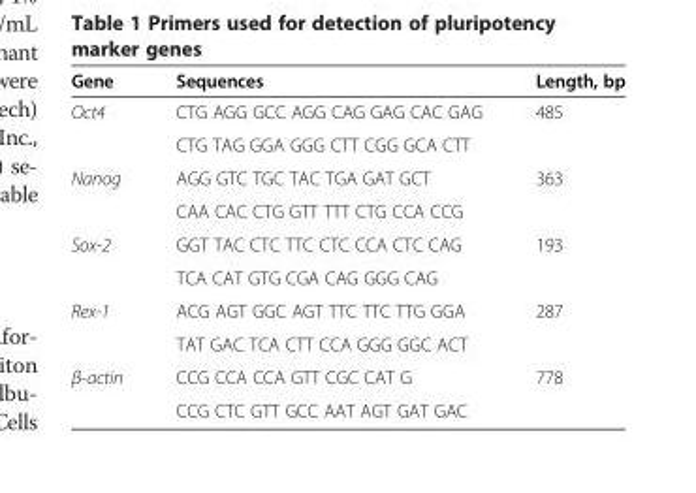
<table><thead><tr><td>Gene</td><td>Sequences</td><td>Length, bp</td></tr></thead><tbody><tr><td rowspan="2">Oct4</td><td>CTG AGG GCC AGG CAG GAG CAC GAG</td><td rowspan="2">485</td></tr><tr><td>CTG TAG GGA GGG CTT CGG GCA CTT</td></tr><tr><td rowspan="2">Nanog</td><td>AGG GTC TGC TAC TGA GAT GCT</td><td rowspan="2">363</td></tr><tr><td>CAA CAC CTG GTT TTT CTG CCA CCG</td></tr><tr><td rowspan="2">Sox-2</td><td>GGT TAC CTC TTC CTC CCA CTC CAG</td><td rowspan="2">193</td></tr><tr><td>TCA CAT GTG CGA CAG GGG CAG</td></tr><tr><td rowspan="2">Rex-1</td><td>ACG AGT GGC AGT TTC TTC TTG GGA</td><td rowspan="2">287</td></tr><tr><td>TAT GAC TCA CTT CCA GGG GGC ACT</td></tr><tr><td rowspan="2">β-actin</td><td>CCG CCA CCA GTT CGC CAT G</td><td>778</td></tr><tr><td>CCG CTC GTT GCC AAT AGT GAT GAC</td><td></td></tr></tbody></table>